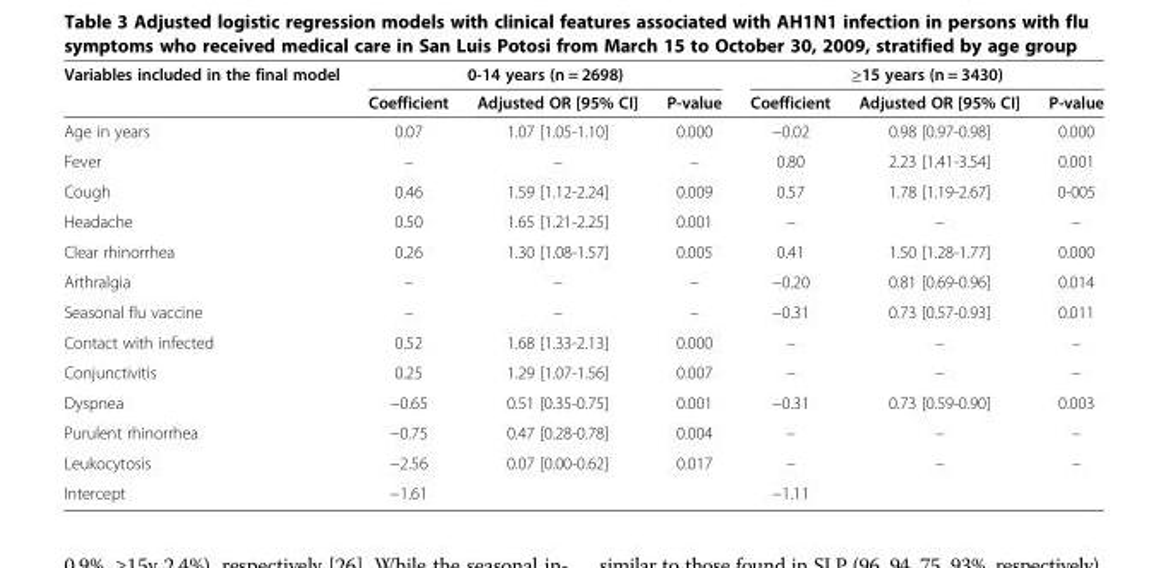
<table><thead><tr><td rowspan="2">Variables included in the final model</td><td colspan="3">0-14 years (n = 2698)</td><td colspan="3">≥15 years (n = 3430)</td></tr><tr><td>Coefficient</td><td>Adjusted OR [95% CI]</td><td>P-value</td><td>Coefficient</td><td>Adjusted OR [95% CI]</td><td>P-value</td></tr></thead><tbody><tr><td>Age in years</td><td>0.07</td><td>1.07 [1.05-1.10]</td><td>0.000</td><td>−0.02</td><td>0.98 [0.97-0.98]</td><td>0.000</td></tr><tr><td>Fever</td><td>–</td><td>–</td><td>–</td><td>0.80</td><td>2.23 [1.41-3.54]</td><td>0.001</td></tr><tr><td>Cough</td><td>0.46</td><td>1.59 [1.12-2.24]</td><td>0.009</td><td>0.57</td><td>1.78 [1.19-2.67]</td><td>0-005</td></tr><tr><td>Headache</td><td>0.50</td><td>1.65 [1.21-2.25]</td><td>0.001</td><td>–</td><td>–</td><td>–</td></tr><tr><td>Clear rhinorrhea</td><td>0.26</td><td>1.30 [1.08-1.57]</td><td>0.005</td><td>0.41</td><td>1.50 [1.28-1.77]</td><td>0.000</td></tr><tr><td>Arthralgia</td><td>–</td><td>–</td><td>–</td><td>−0.20</td><td>0.81 [0.69-0.96]</td><td>0.014</td></tr><tr><td>Seasonal flu vaccine</td><td>–</td><td>–</td><td>–</td><td>−0.31</td><td>0.73 [0.57-0.93]</td><td>0.011</td></tr><tr><td>Contact with infected</td><td>0.52</td><td>1.68 [1.33-2.13]</td><td>0.000</td><td>–</td><td>–</td><td>–</td></tr><tr><td>Conjunctivitis</td><td>0.25</td><td>1.29 [1.07-1.56]</td><td>0.007</td><td>–</td><td>–</td><td>–</td></tr><tr><td>Dyspnea</td><td>−0.65</td><td>0.51 [0.35-0.75]</td><td>0.001</td><td>−0.31</td><td>0.73 [0.59-0.90]</td><td>0.003</td></tr><tr><td>Purulent rhinorrhea</td><td>−0.75</td><td>0.47 [0.28-0.78]</td><td>0.004</td><td>–</td><td>–</td><td>–</td></tr><tr><td>Leukocytosis</td><td>−2.56</td><td>0.07 [0.00-0.62]</td><td>0.017</td><td>–</td><td>–</td><td>–</td></tr><tr><td>Intercept</td><td>−1.61</td><td></td><td></td><td>−1.11</td><td></td><td></td></tr></tbody></table>